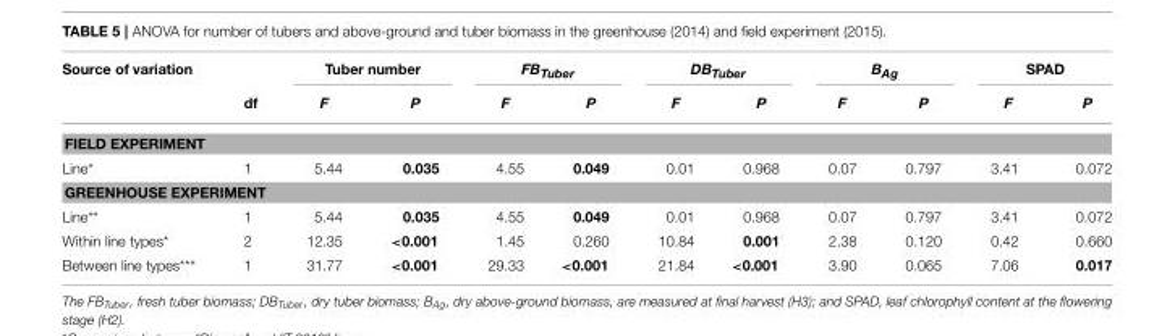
<table><thead><tr><td rowspan="2">Source of variation</td><td rowspan="2">df</td><td colspan="2">Tuber number</td><td colspan="2">FB<sub>Tuber</sub></td><td colspan="2">DBTuber</td><td colspan="2">BAg</td><td colspan="2">SPAD</td></tr><tr><td>F</td><td>P</td><td>F</td><td>P</td><td>F</td><td>P</td><td>F</td><td>P</td><td>F</td><td>P</td></tr></thead><tbody><tr><td colspan="12">FIELD EXPERIMENT</td></tr><tr><td>Line*</td><td>1</td><td>5.44</td><td>0.035</td><td>4.55</td><td>0.049</td><td>0.01</td><td>0.968</td><td>0.07</td><td>0.797</td><td>3.41</td><td>0.072</td></tr><tr><td colspan="12">GREENHOUSE EXPERIMENT</td></tr><tr><td>Line**</td><td>1</td><td>5.44</td><td>0.035</td><td>4.55</td><td>0.049</td><td>0.01</td><td>0.968</td><td>0.07</td><td>0.797</td><td>3.41</td><td>0.072</td></tr><tr><td>Within line types*</td><td>2</td><td>12.35</td><td>&lt;0.001</td><td>1.45</td><td>0.260</td><td>10.84</td><td>0.001</td><td>2.38</td><td>0.120</td><td>0.42</td><td>0.660</td></tr><tr><td>Between line types***</td><td>1</td><td>31.77</td><td>&lt;0.001</td><td>29.33</td><td>&lt;0.001</td><td>21.84</td><td>&lt;0.001</td><td>3.90</td><td>0.065</td><td>7.06</td><td>0.017</td></tr></tbody></table>